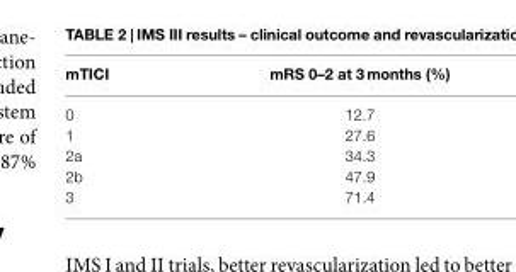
<table><thead><tr><td>mTICI</td><td>mRS 0–2 at 3 months (%)</td></tr></thead><tbody><tr><td>0</td><td>12.7</td></tr><tr><td>1</td><td>27.6</td></tr><tr><td>2a</td><td>34.3</td></tr><tr><td>2b</td><td>47.9</td></tr><tr><td>3</td><td>71.4</td></tr></tbody></table>